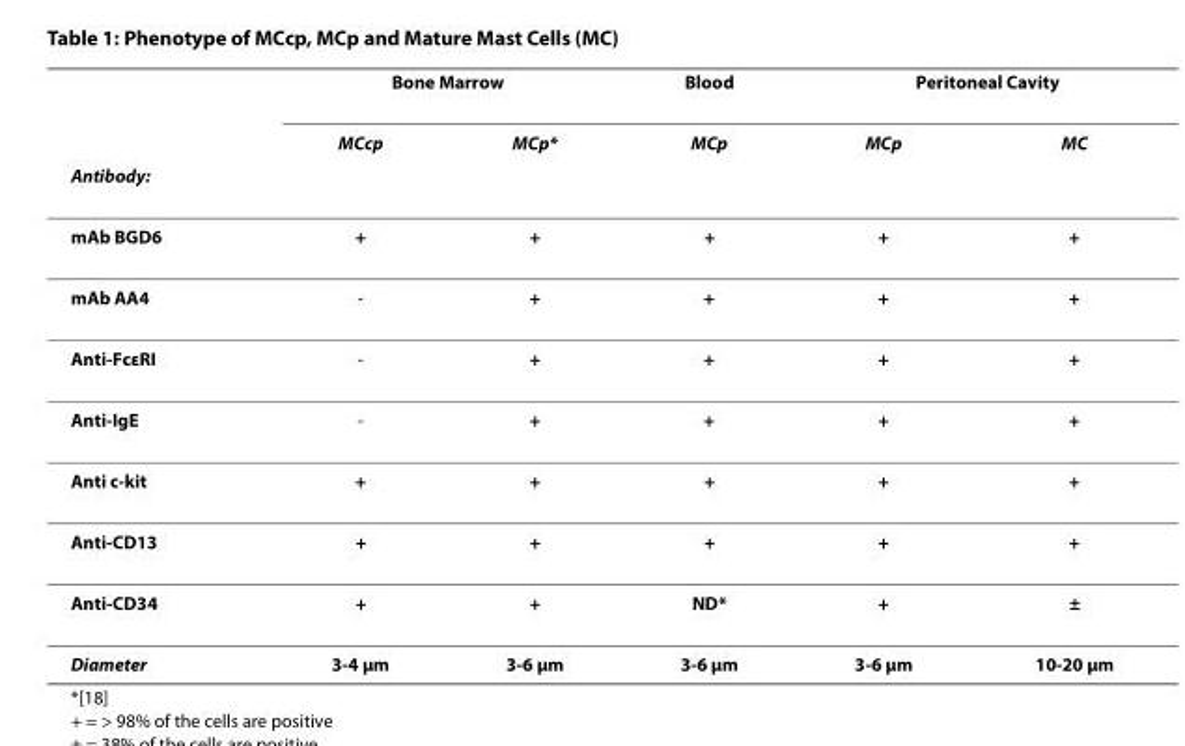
<table><thead><tr><td rowspan="3">Antibody:</td><td colspan="2">Bone Marrow</td><td rowspan="3">Blood MCp</td><td colspan="2">Peritoneal Cavity</td></tr><tr><td rowspan="2">MCcp</td><td rowspan="2">MCp*</td><td rowspan="2">MCp</td><td rowspan="2">MC</td></tr><tr></tr></thead><tbody><tr><td>mAb BGD6</td><td>+</td><td>+</td><td>+</td><td>+</td><td>+</td></tr><tr><td>mAb AA4</td><td>-</td><td>+</td><td>+</td><td>+</td><td>+</td></tr><tr><td>Anti-FcεRI</td><td>-</td><td>+</td><td>+</td><td>+</td><td>+</td></tr><tr><td>Anti-IgE</td><td>-</td><td>+</td><td>+</td><td>+</td><td>+</td></tr><tr><td>Anti c-kit</td><td>+</td><td>+</td><td>+</td><td>+</td><td>+</td></tr><tr><td>Anti-CD13</td><td>+</td><td>+</td><td>+</td><td>+</td><td>+</td></tr><tr><td>Anti-CD34</td><td>+</td><td>+</td><td>ND*</td><td>+</td><td>±</td></tr><tr><td>Diameter</td><td>3-4 μm</td><td>3-6 μm</td><td>3-6 μm</td><td>3-6 μm</td><td>10-20 μm</td></tr></tbody></table>